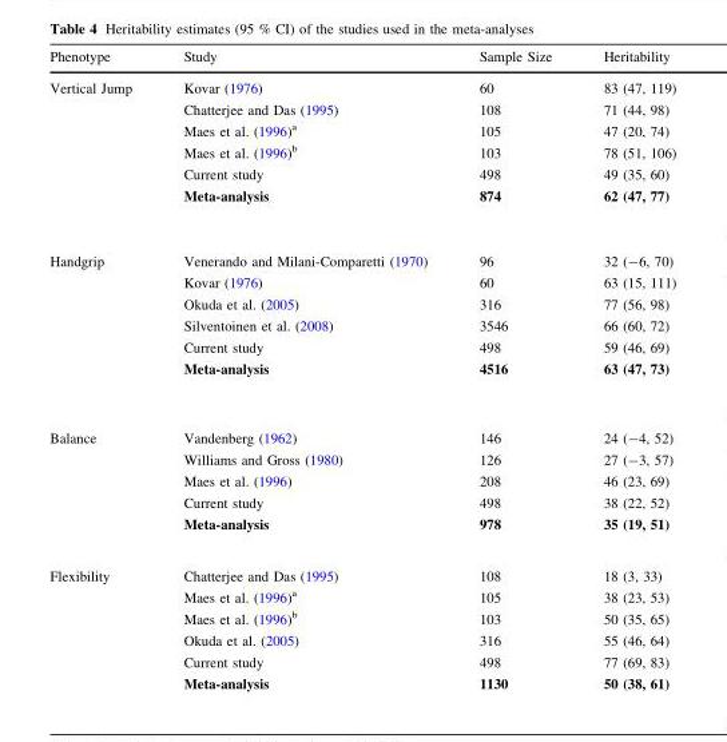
<table><thead><tr><td>Phenotype</td><td>Study</td><td>Sample Size</td><td>Heritability</td></tr></thead><tbody><tr><td rowspan="6">Vertical Jump</td><td>Kovar (1976)</td><td>60</td><td>83 (47, 119)</td></tr><tr><td>Chatterjee and Das (1995)</td><td>108</td><td>71 (44, 98)</td></tr><tr><td>Maes et al. (1996)<sup>a</sup></td><td>105</td><td>47 (20, 74)</td></tr><tr><td>Maes et al. (1996)<sup>b</sup></td><td>103</td><td>78 (51, 106)</td></tr><tr><td>Current study</td><td>498</td><td>49 (35, 60)</td></tr><tr><td>Meta-analysis</td><td>874</td><td>62 (47, 77)</td></tr><tr><td rowspan="6">Handgrip</td><td>Venerando and Milani-Comparetti (1970)</td><td>96</td><td>32 (-6, 70)</td></tr><tr><td>Kovar (1976)</td><td>60</td><td>63 (15, 111)</td></tr><tr><td>Okuda et al. (2005)</td><td>316</td><td>77 (56, 98)</td></tr><tr><td>Silventoinen et al. (2008)</td><td>3546</td><td>66 (60, 72)</td></tr><tr><td>Current study</td><td>498</td><td>59 (46, 69)</td></tr><tr><td>Meta-analysis</td><td>4516</td><td>63 (47, 73)</td></tr><tr><td rowspan="5">Balance</td><td>Vandenberg (1962)</td><td>146</td><td>24 (-4, 52)</td></tr><tr><td>Williams and Gross (1980)</td><td>126</td><td>27 (-3, 57)</td></tr><tr><td>Maes et al. (1996)</td><td>208</td><td>46 (23, 69)</td></tr><tr><td>Current study</td><td>498</td><td>38 (22, 52)</td></tr><tr><td>Meta-analysis</td><td>978</td><td>35 (19, 51)</td></tr><tr><td rowspan="6">Flexibility</td><td>Chatterjee and Das (1995)</td><td>108</td><td>18 (3, 33)</td></tr><tr><td>Maes et al. (1996)<sup>a</sup></td><td>105</td><td>38 (23, 53)</td></tr><tr><td>Maes et al. (1996)<sup>b</sup></td><td>103</td><td>50 (35, 65)</td></tr><tr><td>Okuda et al. (2005)</td><td>316</td><td>55 (46, 64)</td></tr><tr><td>Current study</td><td>498</td><td>77 (69, 83)</td></tr><tr><td>Meta-analysis</td><td>1130</td><td>50 (38, 61)</td></tr></tbody></table>